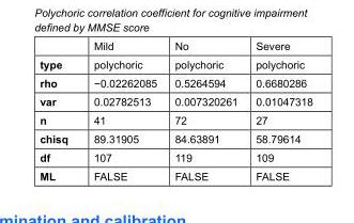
<table><thead><tr><td></td><td>Mild</td><td>No</td><td>Severe</td></tr></thead><tbody><tr><td>type</td><td>polychoric</td><td>polychoric</td><td>polychoric</td></tr><tr><td>rho</td><td>−0.02262085</td><td>0.5264594</td><td>0.6680286</td></tr><tr><td>var</td><td>0.02782513</td><td>0.007320261</td><td>0.01047318</td></tr><tr><td>n</td><td>41</td><td>72</td><td>27</td></tr><tr><td>chisq</td><td>89.31905</td><td>84.63891</td><td>58.79614</td></tr><tr><td>df</td><td>107</td><td>119</td><td>109</td></tr><tr><td>ML</td><td>FALSE</td><td>FALSE</td><td>FALSE</td></tr></tbody></table>